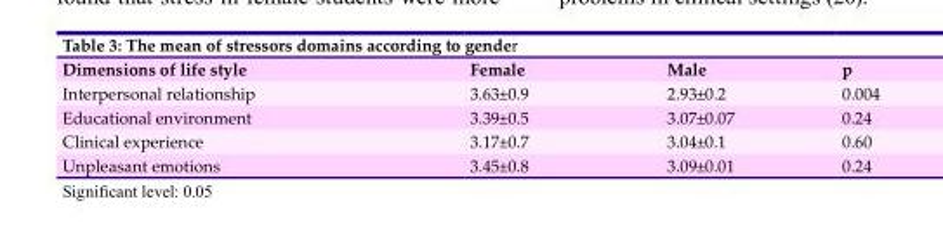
<table><thead><tr><td>Dimensions of life style</td><td>Female</td><td>Male</td><td>p</td></tr></thead><tbody><tr><td>Interpersonal relationship</td><td>3.63±0.9</td><td>2.93±0.2</td><td>0.004</td></tr><tr><td>Educational environment</td><td>3.39±0.5</td><td>3.07±0.07</td><td>0.24</td></tr><tr><td>Clinical experience</td><td>3.17±0.7</td><td>3.04±0.1</td><td>0.60</td></tr><tr><td>Unpleasant emotions</td><td>3.45±0.8</td><td>3.09±0.01</td><td>0.24</td></tr></tbody></table>